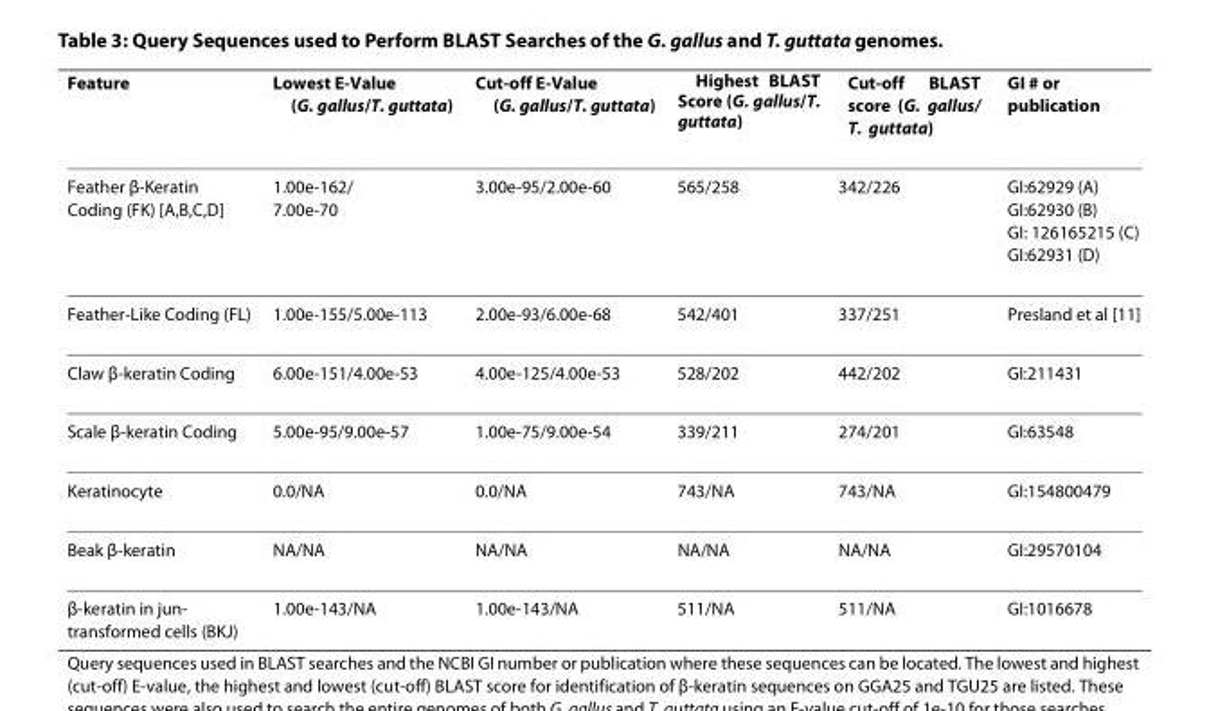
<table><thead><tr><td>Feature</td><td>Lowest E-Value (G. gallus/T. guttata)</td><td>Cut-off E-Value (G. gallus/T. guttata)</td><td>Highest BLAST Score (G. gallus/T. guttata)</td><td>Cut-off BLAST score (G. gallus/ T. guttata)</td><td>GI # or publication</td></tr></thead><tbody><tr><td>Feather β-Keratin Coding (FK) [A,B,C,D]</td><td>1.00e-162/ 7.00e-70</td><td>3.00e-95/2.00e-60</td><td>565/258</td><td>342/226</td><td>GI:62929 (A) GI:62930 (B) GI: 126165215 (C) GI:62931 (D)</td></tr><tr><td>Feather-Like Coding (FL)</td><td>1.00e-155/5.00e-113</td><td>2.00e-93/6.00e-68</td><td>542/401</td><td>337/251</td><td>Presland et al [11]</td></tr><tr><td>Claw β-keratin Coding</td><td>6.00e-151/4.00e-53</td><td>4.00e-125/4.00e-53</td><td>528/202</td><td>442/202</td><td>GI:211431</td></tr><tr><td>Scale β-keratin Coding</td><td>5.00e-95/9.00e-57</td><td>1.00e-75/9.00e-54</td><td>339/211</td><td>274/201</td><td>GI:63548</td></tr><tr><td>Keratinocyte</td><td>0.0/NA</td><td>0.0/NA</td><td>743/NA</td><td>743/NA</td><td>GI:154800479</td></tr><tr><td>Beak β-keratin</td><td>NA/NA</td><td>NA/NA</td><td>NA/NA</td><td>NA/NA</td><td>GI:29570104</td></tr><tr><td>β-keratin in jun- transformed cells (BKJ)</td><td>1.00e-143/NA</td><td>1.00e-143/NA</td><td>511/NA</td><td>511/NA</td><td>GI:1016678</td></tr></tbody></table>